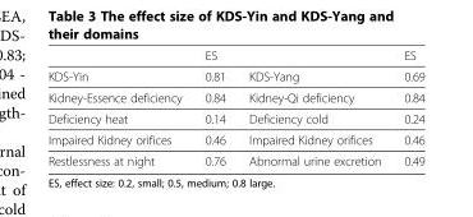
<table><thead><tr><td rowspan="2">KDS-Yin</td><td rowspan="2">ES 0.81</td><td rowspan="2">KDS-Yang</td><td rowspan="2">ES 0.69</td></tr><tr></tr></thead><tbody><tr><td>Kidney-Essence deficiency</td><td>0.84</td><td>Kidney-Qi deficiency</td><td>0.84</td></tr><tr><td>Deficiency heat</td><td>0.14</td><td>Deficiency cold</td><td>0.24</td></tr><tr><td>Impaired Kidney orifices</td><td>0.46</td><td>Impaired Kidney orifices</td><td>0.46</td></tr><tr><td>Restlessness at night</td><td>0.76</td><td>Abnormal urine excretion</td><td>0.49</td></tr></tbody></table>